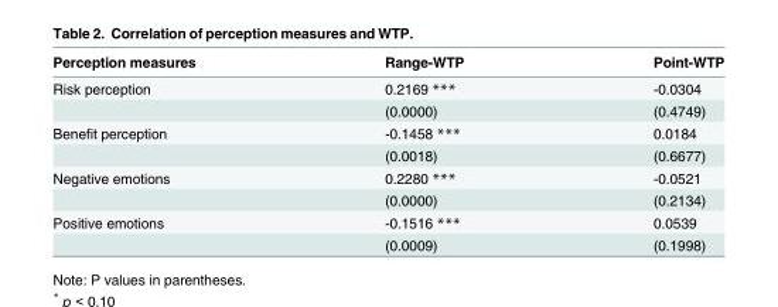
<table><thead><tr><td>Perception measures</td><td>Range-WTP</td><td>Point-WTP</td></tr></thead><tbody><tr><td rowspan="2">Risk perception</td><td>0.2169 ***</td><td>-0.0304</td></tr><tr><td>(0.0000)</td><td>(0.4749)</td></tr><tr><td rowspan="2">Benefit perception</td><td>-0.1458 ***</td><td>0.0184</td></tr><tr><td>(0.0018)</td><td>(0.6677)</td></tr><tr><td rowspan="2">Negative emotions</td><td>0.2280 ***</td><td>-0.0521</td></tr><tr><td>(0.0000)</td><td>(0.2134)</td></tr><tr><td rowspan="2">Positive emotions</td><td>-0.1516 ***</td><td>0.0539</td></tr><tr><td>(0.0009)</td><td>(0.1998)</td></tr></tbody></table>